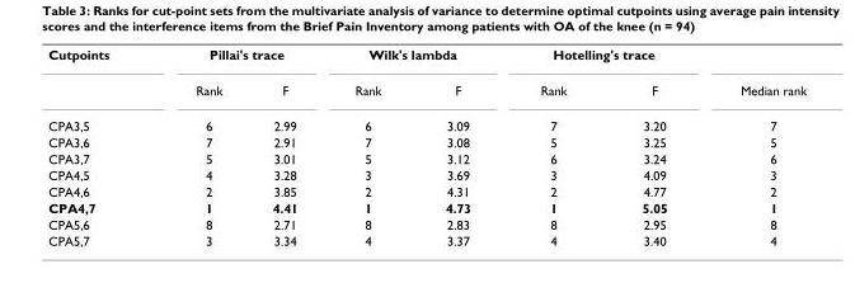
<table><tbody><tr><td rowspan="2">Cutpoints</td><td colspan="2">Pillai&#x27;s trace</td><td colspan="2">Wilk&#x27;s lambda</td><td colspan="2">Hotelling&#x27;s trace</td><td></td></tr><tr><td>Rank</td><td>F</td><td>Rank</td><td>F</td><td>Rank</td><td>F</td><td>Median rank</td></tr><tr><td>CPA3,5</td><td>6</td><td>2.99</td><td>6</td><td>3.09</td><td>7</td><td>3.20</td><td>7</td></tr><tr><td>CPA3,6</td><td>7</td><td>2.91</td><td>7</td><td>3.08</td><td>5</td><td>3.25</td><td>5</td></tr><tr><td>CPA3,7</td><td>5</td><td>3.01</td><td>5</td><td>3.12</td><td>6</td><td>3.24</td><td>6</td></tr><tr><td>CPA4,5</td><td>4</td><td>3.28</td><td>3</td><td>3.69</td><td>3</td><td>4.09</td><td>3</td></tr><tr><td>CPA4,6</td><td>2</td><td>3.85</td><td>2</td><td>4.31</td><td>2</td><td>4.77</td><td>2</td></tr><tr><td>CPA4,7</td><td>1</td><td>4.41</td><td>1</td><td>4.73</td><td>1</td><td>5.05</td><td>1</td></tr><tr><td>CPA5,6</td><td>8</td><td>2.71</td><td>8</td><td>2.83</td><td>8</td><td>2.95</td><td>8</td></tr><tr><td>CPA5,7</td><td>3</td><td>3.34</td><td>4</td><td>3.37</td><td>4</td><td>3.40</td><td>4</td></tr></tbody></table>